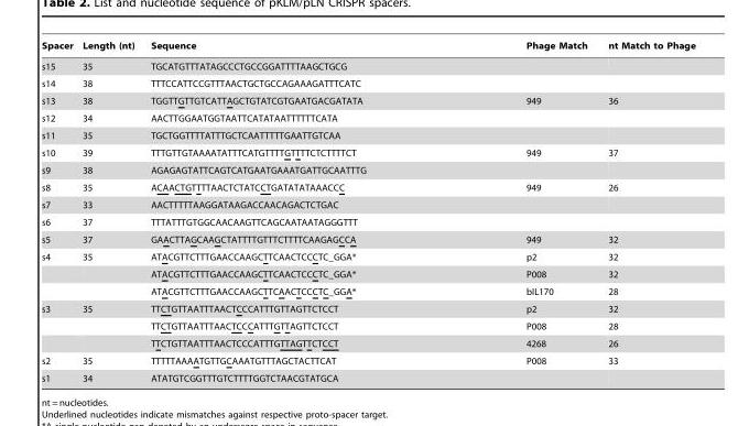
<table><thead><tr><td>Spacer</td><td>Length (nt)</td><td>Sequence</td><td>Phage Match</td><td>nt Match to Phage</td></tr></thead><tbody><tr><td>s15</td><td>35</td><td>TGCATGTTTATAGCCCTGCCGGATTTTAAGCTGCG</td><td></td><td></td></tr><tr><td>s14</td><td>38</td><td>TTTCCATTCCGTTTAACTGCTGCCAGAAAGATTTCATC</td><td></td><td></td></tr><tr><td>s13</td><td>38</td><td>TGGTTGTTGTCATTAGCTGTATCGTGAATGACGATATA</td><td>949</td><td>36</td></tr><tr><td>s12</td><td>34</td><td>AACTTGGAATGGTAATTCATATAATTTTTTCATA</td><td></td><td></td></tr><tr><td>s11</td><td>35</td><td>TGCTGGTTTTATTTGCTCAATTTTTGAATTGTCAA</td><td></td><td></td></tr><tr><td>s10</td><td>39</td><td>TTTGTTGTAAAATATTTCATGTTTTGTTTTCTCTTTTCT</td><td>949</td><td>37</td></tr><tr><td>s9</td><td>38</td><td>AGAGAGTATTCAGTCATGAATGAAATGATTGCAATTTG</td><td></td><td></td></tr><tr><td>s8</td><td>35</td><td>ACAACTGTTTTAACTCTATCCTGATATATAAACCC</td><td>949</td><td>26</td></tr><tr><td>s7</td><td>33</td><td>AACTTTTTAAGGATAAGACCAACAGACTCTGAC</td><td></td><td></td></tr><tr><td>s6</td><td>37</td><td>TTTATTTGTGGCAACAAGTTCAGCAATAATAGGGTTT</td><td></td><td></td></tr><tr><td>s5</td><td>37</td><td>GAACTTAGCAAGCTATTTTGTTTCTTTTCAAGAGCCA</td><td>949</td><td>32</td></tr><tr><td rowspan="3">s4</td><td>35</td><td>ATACGTTCTTTGAACCAAGCTTCAACTCCCTC_GGA*</td><td>p2</td><td>32</td></tr><tr><td></td><td>ATACGTTCTTTGAACCAAGCTTCAACTCCCTC_GGA*</td><td>P008</td><td>32</td></tr><tr><td></td><td>ATACGTTCTTTGAACCAAGCTTCAACTCCCTC_GGA*</td><td>bIL170</td><td>28</td></tr><tr><td rowspan="3">s3</td><td>35</td><td>TTCTGTTAATTTAACTCCCATTTGTTAGTTCTCCT</td><td>p2</td><td>32</td></tr><tr><td></td><td>TTCTGTTAATTTAACTCCCATTTGTTAGTTCTCCT</td><td>P008</td><td>28</td></tr><tr><td></td><td>TTCTGTTAATTTAACTCCCATTTGTTAGTTCTCCT</td><td>4268</td><td>26</td></tr><tr><td>s2</td><td>35</td><td>TTTTTAAAATGTTGCAAATGTTTAGCTACTTCAT</td><td>P008</td><td>33</td></tr><tr><td>s1</td><td>34</td><td>ATATGTCGGTTTGTCTTTTGGTCTAACGTATGCA</td><td></td><td></td></tr></tbody></table>